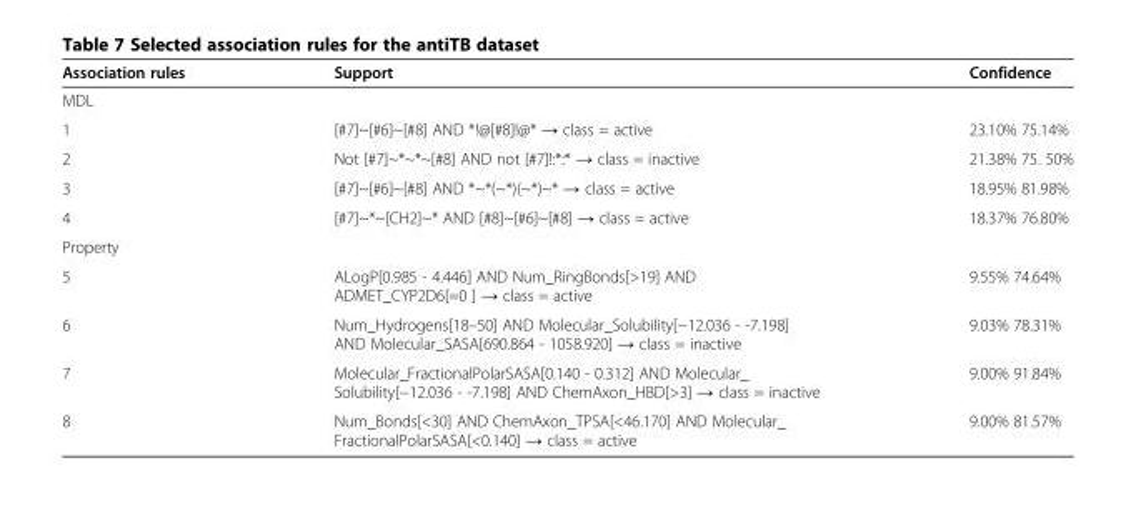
<table><thead><tr><td>Association rules</td><td>Support</td><td>Confidence</td></tr></thead><tbody><tr><td colspan="3">MDL</td></tr><tr><td>1</td><td>[#7]~[#6]~[#8] AND *!@[#8]!@* → class = active</td><td>23.10% 75.14%</td></tr><tr><td>2</td><td>Not [#7]~*~*~[#8] AND not [#7]!:*:* → class = inactive</td><td>21.38% 75. 50%</td></tr><tr><td>3</td><td>[#7]~[#6]~[#8] AND *~*(~*)(~*)~* → class = active</td><td>18.95% 81.98%</td></tr><tr><td>4</td><td>[#7]~*~[CH2]~* AND [#8]~[#6]~[#8] → class = active</td><td>18.37% 76.80%</td></tr><tr><td colspan="3">Property</td></tr><tr><td>5</td><td>ALogP[0.985 - 4.446] AND Num_RingBonds[&gt;19] AND ADMET_CYP2D6[=0 ] → class = active</td><td>9.55% 74.64%</td></tr><tr><td>6</td><td>Num_Hydrogens[18–50] AND Molecular_Solubility[−12.036 - -7.198] AND Molecular_SASA[690.864 - 1058.920] → class = inactive</td><td>9.03% 78.31%</td></tr><tr><td>7</td><td>Molecular_FractionalPolarSASA[0.140 - 0.312] AND Molecular_ Solubility[−12.036 - -7.198] AND ChemAxon_HBD[&gt;3] → class = inactive</td><td>9.00% 91.84%</td></tr><tr><td>8</td><td>Num_Bonds[&lt;30] AND ChemAxon_TPSA[&lt;46.170] AND Molecular_ FractionalPolarSASA[&lt;0.140] → class = active</td><td>9.00% 81.57%</td></tr></tbody></table>